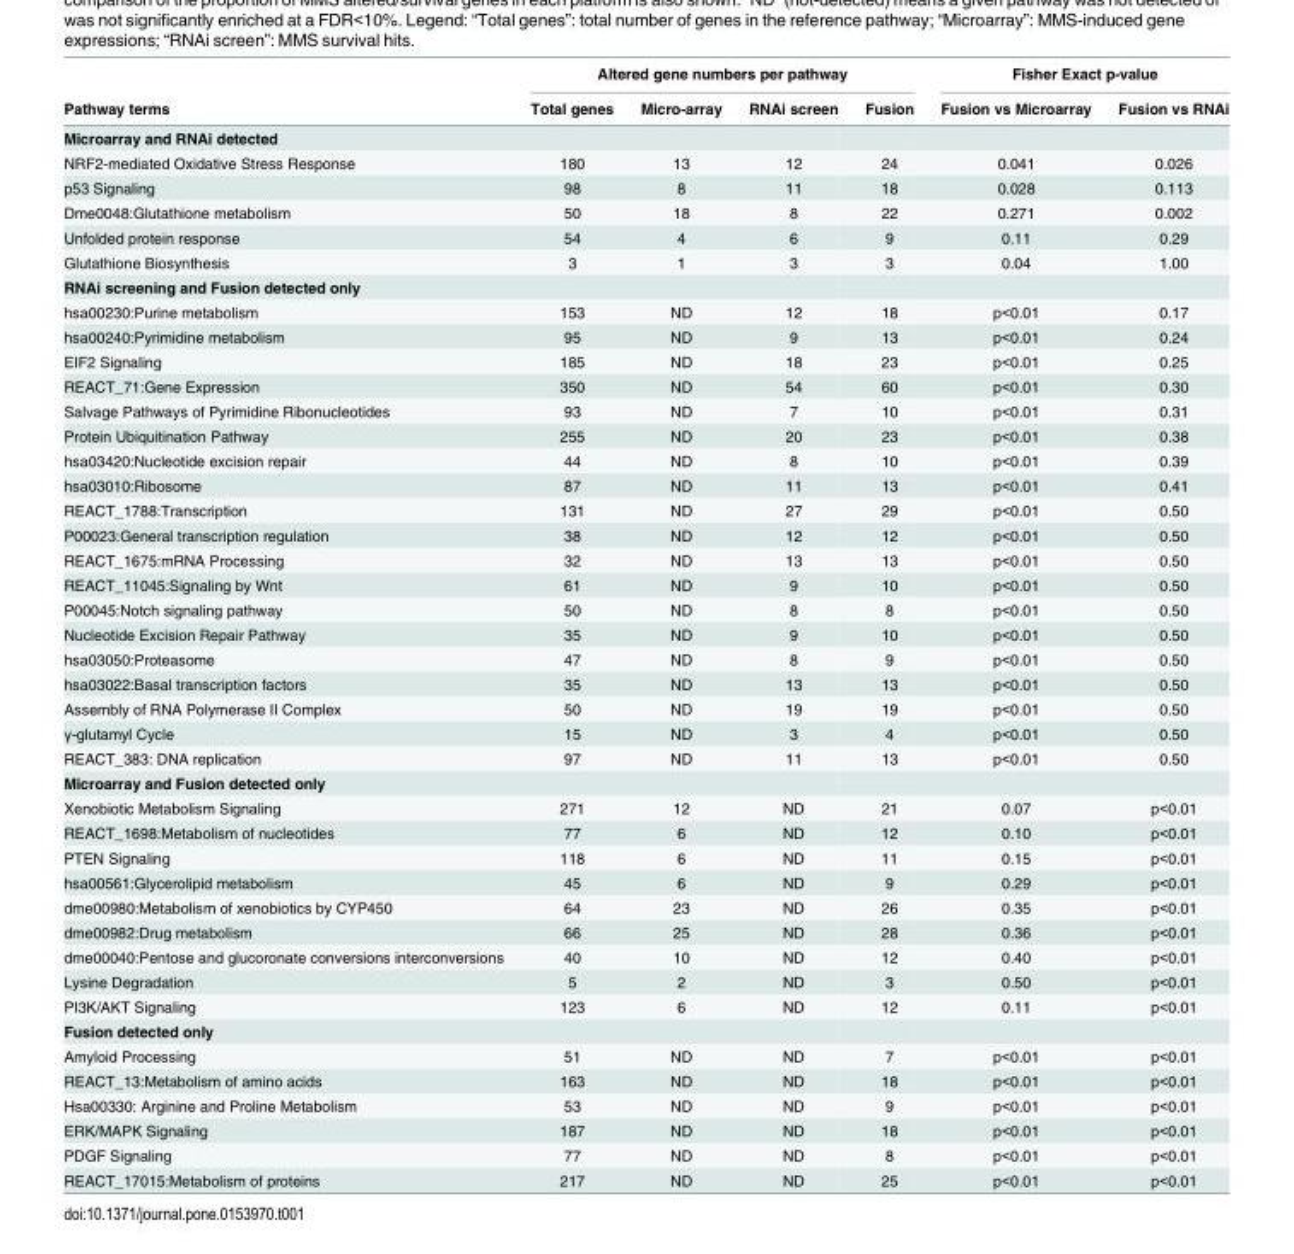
<table><thead><tr><td rowspan="2">Pathway terms</td><td colspan="4">Altered gene numbers per pathway</td><td colspan="2">Fisher Exact p-value</td></tr><tr><td>Total genes</td><td>Micro-array</td><td>RNAi screen</td><td>Fusion</td><td>Fusion vs Microarray</td><td>Fusion vs RNAi</td></tr></thead><tbody><tr><td colspan="7">Microarray and RNAi detected</td></tr><tr><td>NRF2-mediated Oxidative Stress Response</td><td>180</td><td>13</td><td>12</td><td>24</td><td>0.041</td><td>0.026</td></tr><tr><td>p53 Signaling</td><td>98</td><td>8</td><td>11</td><td>18</td><td>0.028</td><td>0.113</td></tr><tr><td>Dme0048:Glutathione metabolism</td><td>50</td><td>18</td><td>8</td><td>22</td><td>0.271</td><td>0.002</td></tr><tr><td>Unfolded protein response</td><td>54</td><td>4</td><td>6</td><td>9</td><td>0.11</td><td>0.29</td></tr><tr><td>Glutathione Biosynthesis</td><td>3</td><td>1</td><td>3</td><td>3</td><td>0.04</td><td>1.00</td></tr><tr><td colspan="7">RNAi screening and Fusion detected only</td></tr><tr><td>hsa00230:Purine metabolism</td><td>153</td><td>ND</td><td>12</td><td>18</td><td>p&lt;0.01</td><td>0.17</td></tr><tr><td>hsa00240:Pyrimidine metabolism</td><td>95</td><td>ND</td><td>9</td><td>13</td><td>p&lt;0.01</td><td>0.24</td></tr><tr><td>EIF2 Signaling</td><td>185</td><td>ND</td><td>18</td><td>23</td><td>p&lt;0.01</td><td>0.25</td></tr><tr><td>REACT_71:Gene Expression</td><td>350</td><td>ND</td><td>54</td><td>60</td><td>p&lt;0.01</td><td>0.30</td></tr><tr><td>Salvage Pathways of Pyrimidine Ribonucleotides</td><td>93</td><td>ND</td><td>7</td><td>10</td><td>p&lt;0.01</td><td>0.31</td></tr><tr><td>Protein Ubiquitination Pathway</td><td>255</td><td>ND</td><td>20</td><td>23</td><td>p&lt;0.01</td><td>0.38</td></tr><tr><td>hsa03420:Nucleotide excision repair</td><td>44</td><td>ND</td><td>8</td><td>10</td><td>p&lt;0.01</td><td>0.39</td></tr><tr><td>hsa03010:Ribosome</td><td>87</td><td>ND</td><td>11</td><td>13</td><td>p&lt;0.01</td><td>0.41</td></tr><tr><td>REACT_1788:Transcription</td><td>131</td><td>ND</td><td>27</td><td>29</td><td>p&lt;0.01</td><td>0.50</td></tr><tr><td>P00023:General transcription regulation</td><td>38</td><td>ND</td><td>12</td><td>12</td><td>p&lt;0.01</td><td>0.50</td></tr><tr><td>REACT_1675:mRNA Processing</td><td>32</td><td>ND</td><td>13</td><td>13</td><td>p&lt;0.01</td><td>0.50</td></tr><tr><td>REACT_11045:Signaling by Wnt</td><td>61</td><td>ND</td><td>9</td><td>10</td><td>p&lt;0.01</td><td>0.50</td></tr><tr><td>P00045:Notch signaling pathway</td><td>50</td><td>ND</td><td>8</td><td>8</td><td>p&lt;0.01</td><td>0.50</td></tr><tr><td>Nucleotide Excision Repair Pathway</td><td>35</td><td>ND</td><td>9</td><td>10</td><td>p&lt;0.01</td><td>0.50</td></tr><tr><td>hsa03050:Proteasome</td><td>47</td><td>ND</td><td>8</td><td>9</td><td>p&lt;0.01</td><td>0.50</td></tr><tr><td>hsa03022:Basal transcription factors</td><td>35</td><td>ND</td><td>13</td><td>13</td><td>p&lt;0.01</td><td>0.50</td></tr><tr><td>Assembly of RNA Polymerase II Complex</td><td>50</td><td>ND</td><td>19</td><td>19</td><td>p&lt;0.01</td><td>0.50</td></tr><tr><td>γ-glutamyl Cycle</td><td>15</td><td>ND</td><td>3</td><td>4</td><td>p&lt;0.01</td><td>0.50</td></tr><tr><td>REACT_383: DNA replication</td><td>97</td><td>ND</td><td>11</td><td>13</td><td>p&lt;0.01</td><td>0.50</td></tr><tr><td colspan="7">Microarray and Fusion detected only</td></tr><tr><td>Xenobiotic Metabolism Signaling</td><td>271</td><td>12</td><td>ND</td><td>21</td><td>0.07</td><td>p&lt;0.01</td></tr><tr><td>REACT_1698:Metabolism of nucleotides</td><td>77</td><td>6</td><td>ND</td><td>12</td><td>0.10</td><td>p&lt;0.01</td></tr><tr><td>PTEN Signaling</td><td>118</td><td>6</td><td>ND</td><td>11</td><td>0.15</td><td>p&lt;0.01</td></tr><tr><td>hsa00561:Glycerolipid metabolism</td><td>45</td><td>6</td><td>ND</td><td>9</td><td>0.29</td><td>p&lt;0.01</td></tr><tr><td>dme00980:Metabolism of xenobiotics by CYP450</td><td>64</td><td>23</td><td>ND</td><td>26</td><td>0.35</td><td>p&lt;0.01</td></tr><tr><td>dme00982:Drug metabolism</td><td>66</td><td>25</td><td>ND</td><td>28</td><td>0.36</td><td>p&lt;0.01</td></tr><tr><td>dme00040:Pentose and glucoronate conversions interconversions</td><td>40</td><td>10</td><td>ND</td><td>12</td><td>0.40</td><td>p&lt;0.01</td></tr><tr><td>Lysine Degradation</td><td>5</td><td>2</td><td>ND</td><td>3</td><td>0.50</td><td>p&lt;0.01</td></tr><tr><td>PI3K/AKT Signaling</td><td>123</td><td>6</td><td>ND</td><td>12</td><td>0.11</td><td>p&lt;0.01</td></tr><tr><td colspan="7">Fusion detected only</td></tr><tr><td>Amyloid Processing</td><td>51</td><td>ND</td><td>ND</td><td>7</td><td>p&lt;0.01</td><td>p&lt;0.01</td></tr><tr><td>REACT_13:Metabolism of amino acids</td><td>163</td><td>ND</td><td>ND</td><td>18</td><td>p&lt;0.01</td><td>p&lt;0.01</td></tr><tr><td>Hsa00330: Arginine and Proline Metabolism</td><td>53</td><td>ND</td><td>ND</td><td>9</td><td>p&lt;0.01</td><td>p&lt;0.01</td></tr><tr><td>ERK/MAPK Signaling</td><td>187</td><td>ND</td><td>ND</td><td>18</td><td>p&lt;0.01</td><td>p&lt;0.01</td></tr><tr><td>PDGF Signaling</td><td>77</td><td>ND</td><td>ND</td><td>8</td><td>p&lt;0.01</td><td>p&lt;0.01</td></tr><tr><td>REACT_17015:Metabolism of proteins</td><td>217</td><td>ND</td><td>ND</td><td>25</td><td>p&lt;0.01</td><td>p&lt;0.01</td></tr></tbody></table>